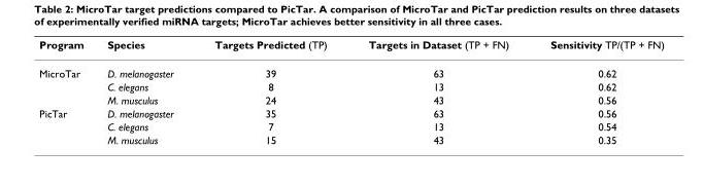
<table><thead><tr><td>Program</td><td>Species</td><td>Targets Predicted (TP)</td><td>Targets in Dataset (TP + FN)</td><td>Sensitivity TP/(TP + FN)</td></tr></thead><tbody><tr><td rowspan="3">MicroTar</td><td>D. melanogaster</td><td>39</td><td>63</td><td>0.62</td></tr><tr><td>C. elegans</td><td>8</td><td>13</td><td>0.62</td></tr><tr><td>M. musculus</td><td>24</td><td>43</td><td>0.56</td></tr><tr><td rowspan="3">PicTar</td><td>D. melanogaster</td><td>35</td><td>63</td><td>0.56</td></tr><tr><td>C. elegans</td><td>7</td><td>13</td><td>0.54</td></tr><tr><td>M. musculus</td><td>15</td><td>43</td><td>0.35</td></tr></tbody></table>